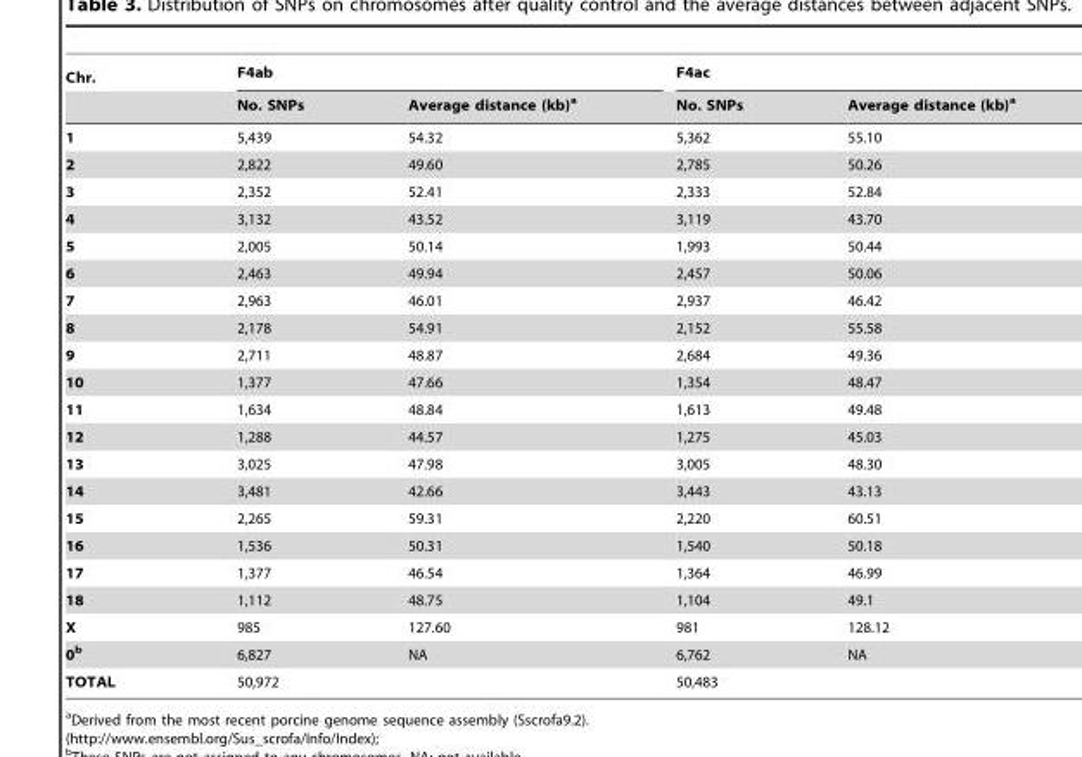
<table><thead><tr><td rowspan="2">Chr.</td><td colspan="2">F4ab</td><td colspan="2">F4ac</td></tr><tr><td>No. SNPs</td><td>Average distance (kb)<sup>a</sup></td><td>No. SNPs</td><td>Average distance (kb)<sup>a</sup></td></tr></thead><tbody><tr><td>1</td><td>5,439</td><td>54.32</td><td>5,362</td><td>55.10</td></tr><tr><td>2</td><td>2,822</td><td>49.60</td><td>2,785</td><td>50.26</td></tr><tr><td>3</td><td>2,352</td><td>52.41</td><td>2,333</td><td>52.84</td></tr><tr><td>4</td><td>3,132</td><td>43.52</td><td>3,119</td><td>43.70</td></tr><tr><td>5</td><td>2,005</td><td>50.14</td><td>1,993</td><td>50.44</td></tr><tr><td>6</td><td>2,463</td><td>49.94</td><td>2,457</td><td>50.06</td></tr><tr><td>7</td><td>2,963</td><td>46.01</td><td>2,937</td><td>46.42</td></tr><tr><td>8</td><td>2,178</td><td>54.91</td><td>2,152</td><td>55.58</td></tr><tr><td>9</td><td>2,711</td><td>48.87</td><td>2,684</td><td>49.36</td></tr><tr><td>10</td><td>1,377</td><td>47.66</td><td>1,354</td><td>48.47</td></tr><tr><td>11</td><td>1,634</td><td>48.84</td><td>1,613</td><td>49.48</td></tr><tr><td>12</td><td>1,288</td><td>44.57</td><td>1,275</td><td>45.03</td></tr><tr><td>13</td><td>3,025</td><td>47.98</td><td>3,005</td><td>48.30</td></tr><tr><td>14</td><td>3,481</td><td>42.66</td><td>3,443</td><td>43.13</td></tr><tr><td>15</td><td>2,265</td><td>59.31</td><td>2,220</td><td>60.51</td></tr><tr><td>16</td><td>1,536</td><td>50.31</td><td>1,540</td><td>50.18</td></tr><tr><td>17</td><td>1,377</td><td>46.54</td><td>1,364</td><td>46.99</td></tr><tr><td>18</td><td>1,112</td><td>48.75</td><td>1,104</td><td>49.1</td></tr><tr><td>X</td><td>985</td><td>127.60</td><td>981</td><td>128.12</td></tr><tr><td>0b</td><td>6,827</td><td>NA</td><td>6,762</td><td>NA</td></tr><tr><td>TOTAL</td><td>50,972</td><td></td><td>50,483</td><td></td></tr></tbody></table>